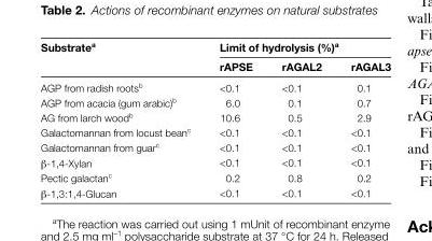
<table><thead><tr><td rowspan="2">Substrate<sup>a</sup></td><td colspan="3">Limit of hydrolysis (%)<sup>a</sup></td></tr><tr><td>rAPSE</td><td>rAGAL2</td><td>rAGAL3</td></tr></thead><tbody><tr><td>AGP from radish roots<sup>b</sup></td><td>&lt;0.1</td><td>&lt;0.1</td><td>0.1</td></tr><tr><td>AGP from acacia (gum arabic)<sup>b</sup></td><td>6.0</td><td>0.1</td><td>0.7</td></tr><tr><td>AG from larch wood<sup>b</sup></td><td>10.6</td><td>0.5</td><td>2.9</td></tr><tr><td>Galactomannan from locust bean<sup>c</sup></td><td>&lt;0.1</td><td>&lt;0.1</td><td>&lt;0.1</td></tr><tr><td>Galactomannan from guar<sup>c</sup></td><td>&lt;0.1</td><td>&lt;0.1</td><td>&lt;0.1</td></tr><tr><td>β-1,4-Xylan</td><td>&lt;0.1</td><td>&lt;0.1</td><td>&lt;0.1</td></tr><tr><td>Pectic galactan<sup>c</sup></td><td>0.2</td><td>0.8</td><td>0.2</td></tr><tr><td>β-1,3:1,4-Glucan</td><td>&lt;0.1</td><td>&lt;0.1</td><td>&lt;0.1</td></tr></tbody></table>